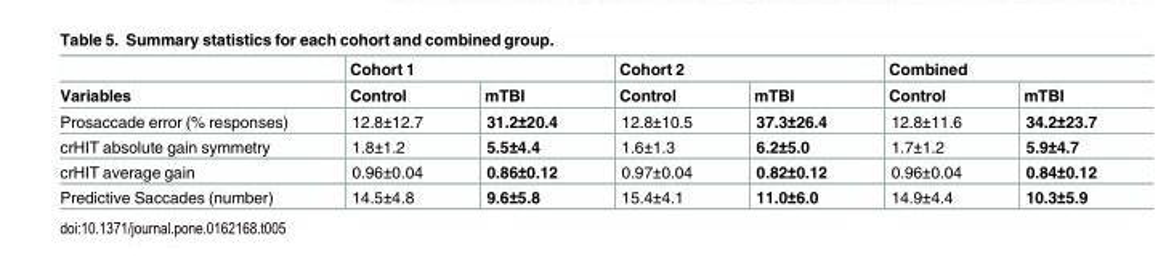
<table><thead><tr><td rowspan="2">Variables</td><td colspan="2">Cohort 1</td><td colspan="2">Cohort 2</td><td colspan="2">Combined</td></tr><tr><td>Control</td><td>mTBI</td><td>Control</td><td>mTBI</td><td>Control</td><td>mTBI</td></tr></thead><tbody><tr><td>Prosaccade error (% responses)</td><td>12.8±12.7</td><td>31.2±20.4</td><td>12.8±10.5</td><td>37.3±26.4</td><td>12.8±11.6</td><td>34.2±23.7</td></tr><tr><td>crHIT absolute gain symmetry</td><td>1.8±1.2</td><td>5.5±4.4</td><td>1.6±1.3</td><td>6.2±5.0</td><td>1.7±1.2</td><td>5.9±4.7</td></tr><tr><td>crHIT average gain</td><td>0.96±0.04</td><td>0.86±0.12</td><td>0.97±0.04</td><td>0.82±0.12</td><td>0.96±0.04</td><td>0.84±0.12</td></tr><tr><td>Predictive Saccades (number)</td><td>14.5±4.8</td><td>9.6±5.8</td><td>15.4±4.1</td><td>11.0±6.0</td><td>14.9±4.4</td><td>10.3±5.9</td></tr></tbody></table>